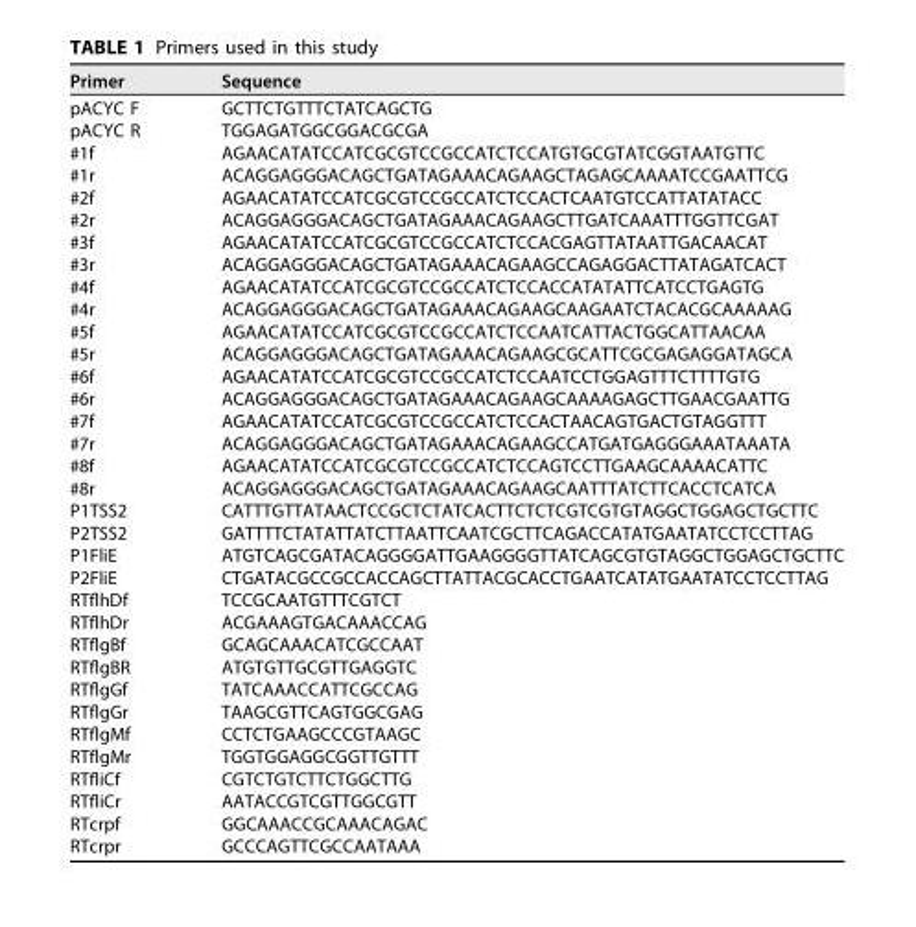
<table><thead><tr><td>Primer</td><td>Sequence</td></tr></thead><tbody><tr><td>pACYC F</td><td>GCTTCTGTTTCTATCAGCTG</td></tr><tr><td>pACYC R</td><td>TGGAGATGGCGGACGCGA</td></tr><tr><td>#1f</td><td>AGAACATATCCATCGCGTCCGCCATCTCCATGTGCGTATCGGTAATGTTC</td></tr><tr><td>#1r</td><td>ACAGGAGGGACAGCTGATAGAAACAGAAGCTAGAGCAAAATCCGAATTCG</td></tr><tr><td>#2f</td><td>AGAACATATCCATCGCGTCCGCCATCTCCACTCAATGTCCATTATATACC</td></tr><tr><td>#2r</td><td>ACAGGAGGGACAGCTGATAGAAACAGAAGCTTGATCAAATTTGGTTCGAT</td></tr><tr><td>#3f</td><td>AGAACATATCCATCGCGTCCGCCATCTCCACGAGTTATAATTGACAACAT</td></tr><tr><td>#3r</td><td>ACAGGAGGGACAGCTGATAGAAACAGAAGCCAGAGGACTTATAGATCACT</td></tr><tr><td>#4f</td><td>AGAACATATCCATCGCGTCCGCCATCTCCACCATATATTCATCCTGAGTG</td></tr><tr><td>#4r</td><td>ACAGGAGGGACAGCTGATAGAAACAGAAGCAAGAATCTACACGCAAAAAG</td></tr><tr><td>#5f</td><td>AGAACATATCCATCGCGTCCGCCATCTCCAATCATTACTGGCATTAACAA</td></tr><tr><td>#5r</td><td>ACAGGAGGGACAGCTGATAGAAACAGAAGCGCATTCGCGAGAGGATAGCA</td></tr><tr><td>#6f</td><td>AGAACATATCCATCGCGTCCGCCATCTCCAATCCTGGAGTTTCTTTTGTG</td></tr><tr><td>#6r</td><td>ACAGGAGGGACAGCTGATAGAAACAGAAGCAAAAGAGCTTGAACGAATTG</td></tr><tr><td>#7f</td><td>AGAACATATCCATCGCGTCCGCCATCTCCACTAACAGTGACTGTAGGTTT</td></tr><tr><td>#7r</td><td>ACAGGAGGGACAGCTGATAGAAACAGAAGCCATGATGAGGGAAATAAATA</td></tr><tr><td>#8f</td><td>AGAACATATCCATCGCGTCCGCCATCTCCAGTCCTTGAAGCAAAACATTC</td></tr><tr><td>#8r</td><td>ACAGGAGGGACAGCTGATAGAAACAGAAGCAATTTATCTTCACCTCATCA</td></tr><tr><td>P1TSS2</td><td>CATTTGTTATAACTCCGCTCTATCACTTCTCTCGTCGTGTAGGCTGGAGCTGCTTC</td></tr><tr><td>P2TSS2</td><td>GATTTTCTATATTATCTTAATTCAATCGCTTCAGACCATATGAATATCCTCCTTAG</td></tr><tr><td>P1FliE</td><td>ATGTCAGCGATACAGGGGATTGAAGGGGTTATCAGCGTGTAGGCTGGAGCTGCTTC</td></tr><tr><td>P2FliE</td><td>CTGATACGCCGCCACCAGCTTATTACGCACCTGAATCATATGAATATCCTCCTTAG</td></tr><tr><td>RTflhDf</td><td>TCCGCAATGTTTCGTCT</td></tr><tr><td>RTflhDr</td><td>ACGAAAGTGACAAACCAG</td></tr><tr><td>RTflgBf</td><td>GCAGCAAACATCGCCAAT</td></tr><tr><td>RTflgBR</td><td>ATGTGTTGCGTTGAGGTC</td></tr><tr><td>RTflgGf</td><td>TATCAAACCATTCGCCAG</td></tr><tr><td>RTflgGr</td><td>TAAGCGTTCAGTGGCGAG</td></tr><tr><td>RTflgMf</td><td>CCTCTGAAGCCCGTAAGC</td></tr><tr><td>RTflgMr</td><td>TGGTGGAGGCGGTTGTTT</td></tr><tr><td>RTfliCf</td><td>CGTCTGTCTTCTGGCTTG</td></tr><tr><td>RTfliCr</td><td>AATACCGTCGTTGGCGTT</td></tr><tr><td>RTcrpf</td><td>GGCAAACCGCAAACAGAC</td></tr><tr><td>RTcrpr</td><td>GCCCAGTTCGCCAATAAA</td></tr></tbody></table>